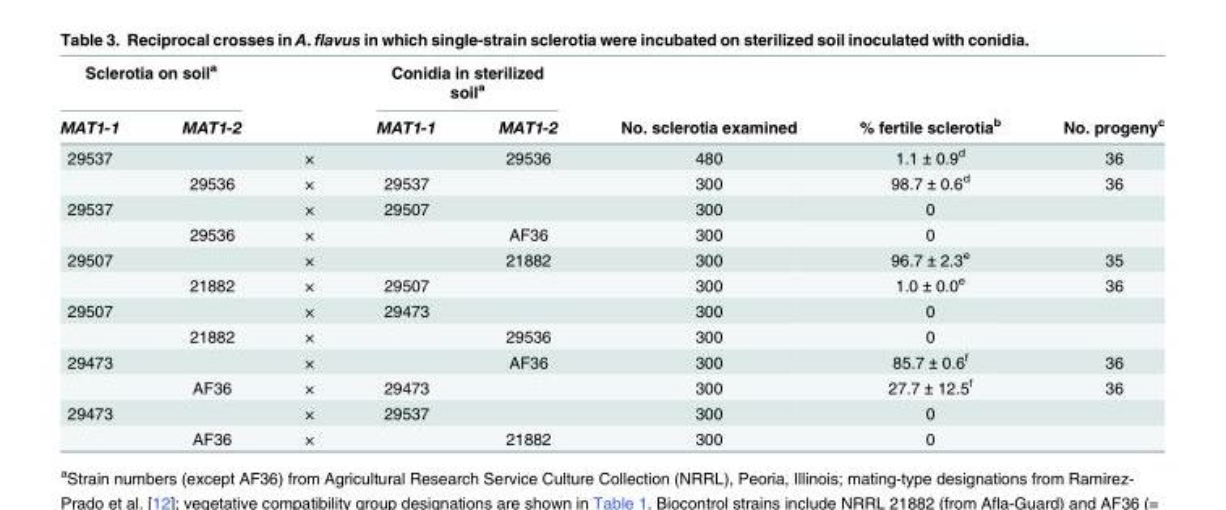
<table><thead><tr><td colspan="2">Sclerotia on soil<sup>a</sup></td><td rowspan="2"></td><td colspan="2">Conidia in sterilized soil<sup>a</sup></td><td rowspan="2">No. sclerotia examined</td><td rowspan="2">% fertile sclerotia<sup>b</sup></td><td rowspan="2">No. progeny<sup>c</sup></td></tr><tr><td>MAT1-1</td><td>MAT1-2</td><td>MAT1-1</td><td>MAT1-2</td></tr></thead><tbody><tr><td rowspan="2">29537</td><td></td><td>×</td><td></td><td>29536</td><td>480</td><td>1.1 ± 0.9<sup>d</sup></td><td>36</td></tr><tr><td>29536</td><td>×</td><td>29537</td><td></td><td>300</td><td>98.7 ± 0.6<sup>d</sup></td><td>36</td></tr><tr><td rowspan="2">29537</td><td></td><td>×</td><td>29507</td><td></td><td>300</td><td>0</td><td></td></tr><tr><td>29536</td><td>×</td><td></td><td>AF36</td><td>300</td><td>0</td><td></td></tr><tr><td rowspan="2">29507</td><td></td><td>×</td><td></td><td>21882</td><td>300</td><td>96.7 ± 2.3<sup>e</sup></td><td>35</td></tr><tr><td>21882</td><td>×</td><td>29507</td><td></td><td>300</td><td>1.0 ± 0.0<sup>e</sup></td><td>36</td></tr><tr><td rowspan="2">29507</td><td></td><td>×</td><td>29473</td><td></td><td>300</td><td>0</td><td></td></tr><tr><td>21882</td><td>×</td><td></td><td>29536</td><td>300</td><td>0</td><td></td></tr><tr><td rowspan="2">29473</td><td></td><td>×</td><td></td><td>AF36</td><td>300</td><td>85.7 ± 0.6<sup>f</sup></td><td>36</td></tr><tr><td>AF36</td><td>×</td><td>29473</td><td></td><td>300</td><td>27.7 ± 12.5<sup>f</sup></td><td>36</td></tr><tr><td rowspan="2">29473</td><td></td><td>×</td><td>29537</td><td></td><td>300</td><td>0</td><td></td></tr><tr><td>AF36</td><td>×</td><td></td><td>21882</td><td>300</td><td>0</td><td></td></tr></tbody></table>